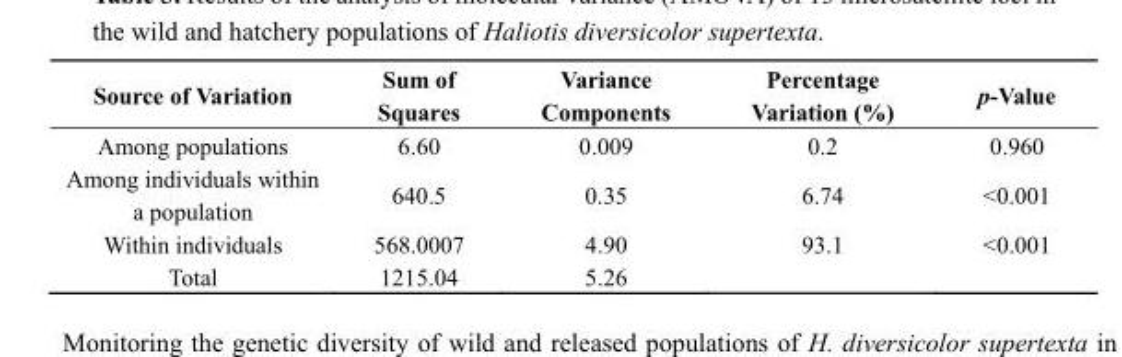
<table><thead><tr><td>Source of Variation</td><td>Sum of Squares</td><td>Variance Components</td><td>Percentage Variation (%)</td><td>p-Value</td></tr></thead><tbody><tr><td>Among populations</td><td>6.60</td><td>0.009</td><td>0.2</td><td>0.960</td></tr><tr><td>Among individuals within a population</td><td>640.5</td><td>0.35</td><td>6.74</td><td>&lt;0.001</td></tr><tr><td>Within individuals</td><td>568.0007</td><td>4.90</td><td>93.1</td><td>&lt;0.001</td></tr><tr><td>Total</td><td>1215.04</td><td>5.26</td><td></td><td></td></tr></tbody></table>